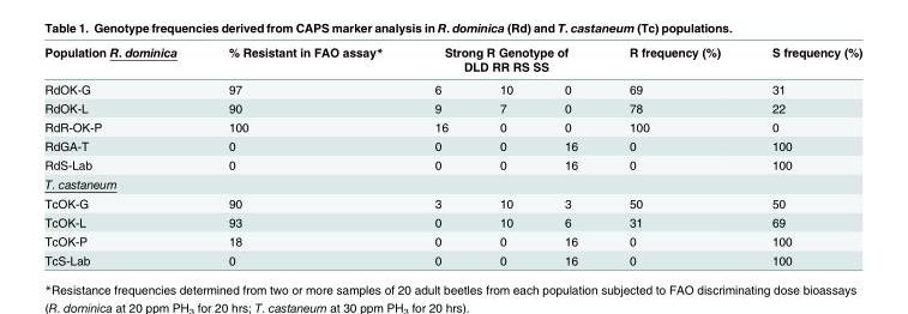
<table><thead><tr><td rowspan="2">Population R. dominica RdOK-G</td><td rowspan="2">% Resistant in FAO assay* 97</td><td colspan="3">Strong R Genotype of DLD RR RS SS</td><td rowspan="2">R frequency (%) 69</td><td rowspan="2">S frequency (%) 31</td></tr><tr><td>6</td><td>10</td><td>0</td></tr></thead><tbody><tr><td>RdOK-L</td><td>90</td><td>9</td><td>7</td><td>0</td><td>78</td><td>22</td></tr><tr><td>RdR-OK-P</td><td>100</td><td>16</td><td>0</td><td>0</td><td>100</td><td>0</td></tr><tr><td>RdGA-T</td><td>0</td><td>0</td><td>0</td><td>16</td><td>0</td><td>100</td></tr><tr><td>RdS-Lab</td><td>0</td><td>0</td><td>0</td><td>16</td><td>0</td><td>100</td></tr><tr><td colspan="7">T. castaneum</td></tr><tr><td>TcOK-G</td><td>90</td><td>3</td><td>10</td><td>3</td><td>50</td><td>50</td></tr><tr><td>TcOK-L</td><td>93</td><td>0</td><td>10</td><td>6</td><td>31</td><td>69</td></tr><tr><td>TcOK-P</td><td>18</td><td>0</td><td>0</td><td>16</td><td>0</td><td>100</td></tr><tr><td>TcS-Lab</td><td>0</td><td>0</td><td>0</td><td>16</td><td>0</td><td>100</td></tr></tbody></table>